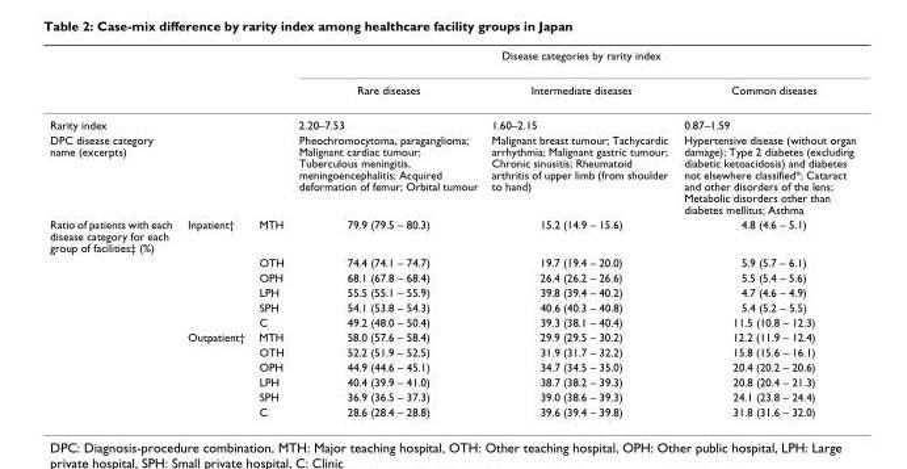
<table><thead><tr><td rowspan="2"></td><td rowspan="2"></td><td rowspan="2"></td><td colspan="3">Disease categories by rarity index</td></tr><tr><td>Rare diseases</td><td>Intermediate diseases</td><td>Common diseases</td></tr></thead><tbody><tr><td>Rarity index</td><td></td><td></td><td>2.20–7.53</td><td>1.60–2.15</td><td>0.87–1.59</td></tr><tr><td>DPC disease category name (excerpts)</td><td></td><td></td><td>Pheochromocytoma, paraganglioma; Malignant cardiac tumour; Tuberculous meningitis, meningoencephalitis; Acquired deformation of femur; Orbital tumour</td><td>Malignant breast tumour; Tachycardic arrhythmia; Malignant gastric tumour; Chronic sinusitis; Rheumatoid arthritis of upper limb (from shoulder to hand)</td><td>Hypertensive disease (without organ damage); Type 2 diabetes (excluding diabetic ketoacidosis) and diabetes not elsewhere classified*; Cataract and other disorders of the lens; Metabolic disorders other than diabetes mellitus; Asthma</td></tr><tr><td rowspan="12">Ratio of patients with each disease category for each group of facilities‡ (%)</td><td>Inpatient†</td><td>MTH</td><td>79.9 (79.5 – 80.3)</td><td>15.2 (14.9 – 15.6)</td><td>4.8 (4.6 – 5.1)</td></tr><tr><td></td><td>OTH</td><td>74.4 (74.1 – 74.7)</td><td>19.7 (19.4 – 20.0)</td><td>5.9 (5.7 – 6.1)</td></tr><tr><td></td><td>OPH</td><td>68.1 (67.8 – 68.4)</td><td>26.4 (26.2 – 26.6)</td><td>5.5 (5.4 – 5.6)</td></tr><tr><td></td><td>LPH</td><td>55.5 (55.1 – 55.9)</td><td>39.8 (39.4 – 40.2)</td><td>4.7 (4.6 – 4.9)</td></tr><tr><td></td><td>SPH</td><td>54.1 (53.8 – 54.3)</td><td>40.6 (40.3 – 40.8)</td><td>5.4 (5.2 – 5.5)</td></tr><tr><td></td><td>C</td><td>49.2 (48.0 – 50.4)</td><td>39.3 (38.1 – 40.4)</td><td>11.5 (10.8 – 12.3)</td></tr><tr><td>Outpatient†</td><td>MTH</td><td>58.0 (57.6 – 58.4)</td><td>29.9 (29.5 – 30.2)</td><td>12.2 (11.9 – 12.4)</td></tr><tr><td></td><td>OTH</td><td>52.2 (51.9 – 52.5)</td><td>31.9 (31.7 – 32.2)</td><td>15.8 (15.6 – 16.1)</td></tr><tr><td></td><td>OPH</td><td>44.9 (44.6 – 45.1)</td><td>34.7 (34.5 – 35.0)</td><td>20.4 (20.2 – 20.6)</td></tr><tr><td></td><td>LPH</td><td>40.4 (39.9 – 41.0)</td><td>38.7 (38.2 – 39.3)</td><td>20.8 (20.4 – 21.3)</td></tr><tr><td></td><td>SPH</td><td>36.9 (36.5 – 37.3)</td><td>39.0 (38.6 – 39.3)</td><td>24.1 (23.8 – 24.4)</td></tr><tr><td></td><td>C</td><td>28.6 (28.4 – 28.8)</td><td>39.6 (39.4 – 39.8)</td><td>31.8 (31.6 – 32.0)</td></tr></tbody></table>